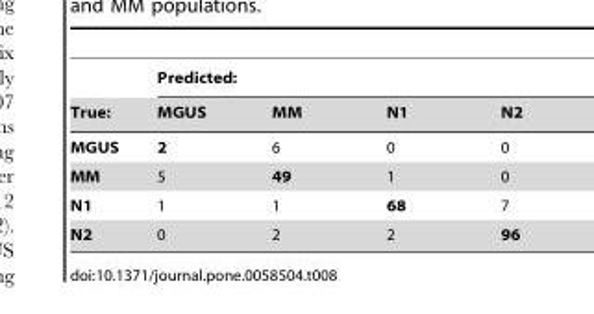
<table><thead><tr><td rowspan="2">True:</td><td colspan="4">Predicted:</td></tr><tr><td>MGUS</td><td>MM</td><td>N1</td><td>N2</td></tr></thead><tbody><tr><td>MGUS</td><td>2</td><td>6</td><td>0</td><td>0</td></tr><tr><td>MM</td><td>5</td><td>49</td><td>1</td><td>0</td></tr><tr><td>N1</td><td>1</td><td>1</td><td>68</td><td>7</td></tr><tr><td>N2</td><td>0</td><td>2</td><td>2</td><td>96</td></tr></tbody></table>